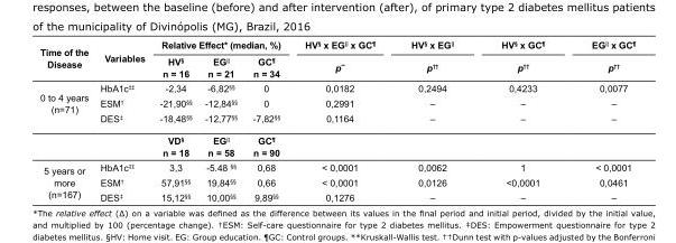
<table><tbody><tr><td rowspan="2">Time of the Disease</td><td rowspan="2">Variables</td><td colspan="3">Relative Effect* (median, %)</td><td>HV<sup>§</sup> x EG<sup>||</sup> x GC<sup>¶</sup></td><td>HV<sup>§</sup> x EG<sup>||</sup></td><td>HV<sup>§</sup> x GC<sup>¶</sup></td><td>EG<sup>||</sup> x GC<sup>¶</sup></td></tr><tr><td>HV<sup>§</sup> n = 16</td><td>EG|| n = 21</td><td>GC¶ n = 34</td><td>p**</td><td>p<sup>††</sup></td><td>p<sup>††</sup></td><td>p<sup>††</sup></td></tr><tr><td rowspan="4">0 to 4 years (n=71)</td><td>HbA1c<sup>‡‡</sup></td><td>-2,34</td><td>-6,82<sup>§§</sup></td><td>0</td><td>0,0182</td><td>0,2494</td><td>0,4233</td><td>0,0077</td></tr><tr><td>ESM<sup>†</sup></td><td>-21,90<sup>§§</sup></td><td>-12,84<sup>§§</sup></td><td>0</td><td>0,2991</td><td>–</td><td>–</td><td>–</td></tr><tr><td>DES<sup>‡</sup></td><td>-18,48<sup>§§</sup></td><td>-12,77<sup>§§</sup></td><td>-7,82<sup>§§</sup></td><td>0,1164</td><td>–</td><td>–</td><td>–</td></tr><tr><td></td><td>VD<sup>§</sup> n = 18</td><td>EG<sup>||</sup> n = 58</td><td>GC<sup>¶</sup> n = 90</td><td></td><td></td><td></td><td></td></tr><tr><td rowspan="3">5 years or more (n=167)</td><td>HbA1c<sup>‡‡</sup></td><td>3,3</td><td>-5.48 <sup>§§</sup></td><td>0,68</td><td>&lt; 0,0001</td><td>0,0062</td><td>1</td><td>&lt; 0,0001</td></tr><tr><td>ESM<sup>†</sup></td><td>57,91<sup>§§</sup></td><td>19,84<sup>§§</sup></td><td>0,66</td><td>&lt; 0,0001</td><td>0,0126</td><td>&lt;0,0001</td><td>0,0461</td></tr><tr><td>DES<sup>‡</sup></td><td>15,12<sup>§§</sup></td><td>10,00<sup>§§</sup></td><td>9,89<sup>§§</sup></td><td>0,1276</td><td>–</td><td>–</td><td>–</td></tr></tbody></table>